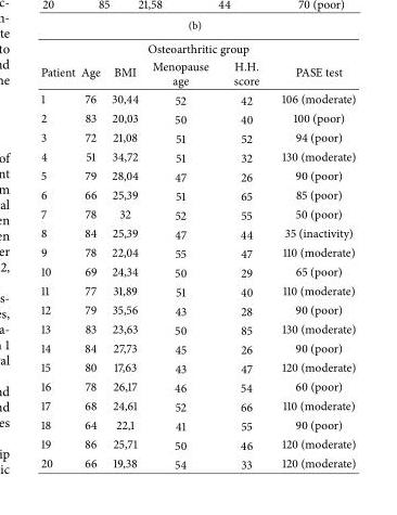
<table><thead><tr><td colspan="6">Osteoarthritic group</td></tr><tr><td>Patient</td><td>Age</td><td>BMI</td><td>Menopause age</td><td>H.H. score</td><td>PASE test</td></tr></thead><tbody><tr><td>1</td><td>76</td><td>30,44</td><td>52</td><td>42</td><td>106 (moderate)</td></tr><tr><td>2</td><td>83</td><td>20,03</td><td>50</td><td>40</td><td>100 (poor)</td></tr><tr><td>3</td><td>72</td><td>21,08</td><td>51</td><td>52</td><td>94 (poor)</td></tr><tr><td>4</td><td>51</td><td>34,72</td><td>51</td><td>32</td><td>130 (moderate)</td></tr><tr><td>5</td><td>79</td><td>28,04</td><td>47</td><td>26</td><td>90 (poor)</td></tr><tr><td>6</td><td>66</td><td>25,39</td><td>51</td><td>65</td><td>85 (poor)</td></tr><tr><td>7</td><td>78</td><td>32</td><td>52</td><td>55</td><td>50 (poor)</td></tr><tr><td>8</td><td>84</td><td>25,39</td><td>47</td><td>44</td><td>35 (inactivity)</td></tr><tr><td>9</td><td>78</td><td>22,04</td><td>55</td><td>47</td><td>110 (moderate)</td></tr><tr><td>10</td><td>69</td><td>24,34</td><td>50</td><td>29</td><td>65 (poor)</td></tr><tr><td>11</td><td>77</td><td>31,89</td><td>51</td><td>40</td><td>110 (moderate)</td></tr><tr><td>12</td><td>79</td><td>35,56</td><td>43</td><td>28</td><td>90 (poor)</td></tr><tr><td>13</td><td>83</td><td>23,63</td><td>50</td><td>85</td><td>130 (moderate)</td></tr><tr><td>14</td><td>84</td><td>27,73</td><td>45</td><td>26</td><td>90 (poor)</td></tr><tr><td>15</td><td>80</td><td>17,63</td><td>43</td><td>47</td><td>120 (moderate)</td></tr><tr><td>16</td><td>78</td><td>26,17</td><td>46</td><td>54</td><td>60 (poor)</td></tr><tr><td>17</td><td>68</td><td>24,61</td><td>52</td><td>66</td><td>110 (moderate)</td></tr><tr><td>18</td><td>64</td><td>22,1</td><td>41</td><td>55</td><td>90 (poor)</td></tr><tr><td>19</td><td>86</td><td>25,71</td><td>50</td><td>46</td><td>120 (moderate)</td></tr><tr><td>20</td><td>66</td><td>19,38</td><td>54</td><td>33</td><td>120 (moderate)</td></tr></tbody></table>